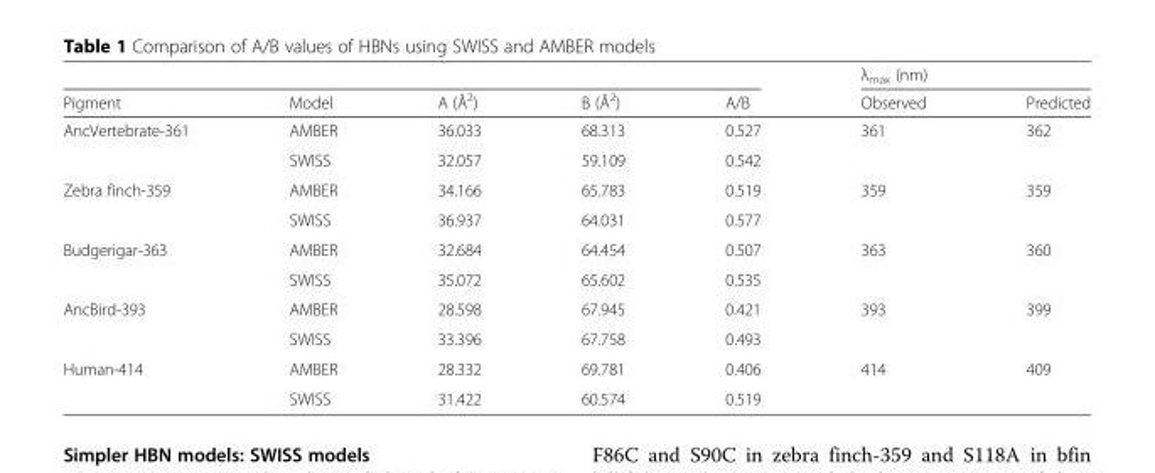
<table><thead><tr><td rowspan="2">Pigment</td><td rowspan="2">Model</td><td rowspan="2">A (Å<sup>2</sup>)</td><td rowspan="2">B (Å<sup>2</sup>)</td><td rowspan="2">A/B</td><td colspan="2">λ<sub>max</sub> (nm)</td></tr><tr><td>Observed</td><td>Predicted</td></tr></thead><tbody><tr><td rowspan="2">AncVertebrate-361</td><td>AMBER</td><td>36.033</td><td>68.313</td><td>0.527</td><td>361</td><td>362</td></tr><tr><td>SWISS</td><td>32.057</td><td>59.109</td><td>0.542</td><td></td><td></td></tr><tr><td rowspan="2">Zebra finch-359</td><td>AMBER</td><td>34.166</td><td>65.783</td><td>0.519</td><td>359</td><td>359</td></tr><tr><td>SWISS</td><td>36.937</td><td>64.031</td><td>0.577</td><td></td><td></td></tr><tr><td rowspan="2">Budgerigar-363</td><td>AMBER</td><td>32.684</td><td>64.454</td><td>0.507</td><td>363</td><td>360</td></tr><tr><td>SWISS</td><td>35.072</td><td>65.602</td><td>0.535</td><td></td><td></td></tr><tr><td rowspan="2">AncBird-393</td><td>AMBER</td><td>28.598</td><td>67.945</td><td>0.421</td><td>393</td><td>399</td></tr><tr><td>SWISS</td><td>33.396</td><td>67.758</td><td>0.493</td><td></td><td></td></tr><tr><td rowspan="2">Human-414</td><td>AMBER</td><td>28.332</td><td>69.781</td><td>0.406</td><td>414</td><td>409</td></tr><tr><td>SWISS</td><td>31.422</td><td>60.574</td><td>0.519</td><td></td><td></td></tr></tbody></table>